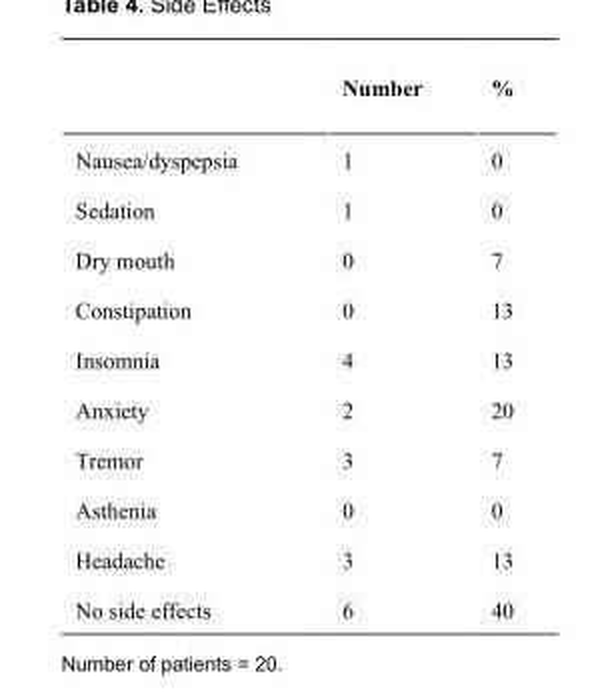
<table><thead><tr><td></td><td>Number</td><td>%</td></tr></thead><tbody><tr><td>Nausea/dyspepsia</td><td>1</td><td>0</td></tr><tr><td>Sedation</td><td>1</td><td>0</td></tr><tr><td>Dry mouth</td><td>0</td><td>7</td></tr><tr><td>Constipation</td><td>0</td><td>13</td></tr><tr><td>Insomnia</td><td>4</td><td>13</td></tr><tr><td>Anxiety</td><td>2</td><td>20</td></tr><tr><td>Tremor</td><td>3</td><td>7</td></tr><tr><td>Asthenia</td><td>0</td><td>0</td></tr><tr><td>Headache</td><td>3</td><td>13</td></tr><tr><td>No side effects</td><td>6</td><td>40</td></tr></tbody></table>